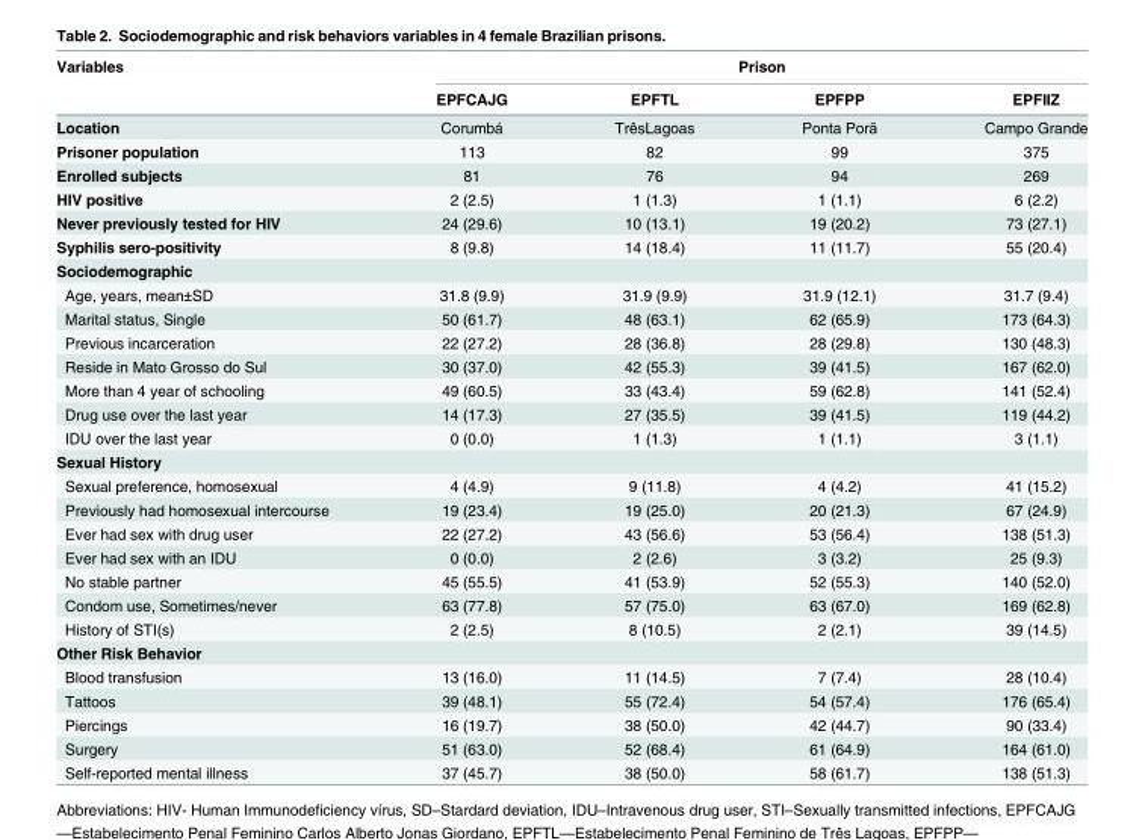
<table><thead><tr><td rowspan="2">Variables</td><td colspan="4">Prison</td></tr><tr><td>EPFCAJG</td><td>EPFTL</td><td>EPFPP</td><td>EPFIIZ</td></tr></thead><tbody><tr><td>Location</td><td>Corumbá</td><td>TrêsLagoas</td><td>Ponta Porã</td><td>Campo Grande</td></tr><tr><td>Prisoner population</td><td>113</td><td>82</td><td>99</td><td>375</td></tr><tr><td>Enrolled subjects</td><td>81</td><td>76</td><td>94</td><td>269</td></tr><tr><td>HIV positive</td><td>2 (2.5)</td><td>1 (1.3)</td><td>1 (1.1)</td><td>6 (2.2)</td></tr><tr><td>Never previously tested for HIV</td><td>24 (29.6)</td><td>10 (13.1)</td><td>19 (20.2)</td><td>73 (27.1)</td></tr><tr><td>Syphilis sero-positivity</td><td>8 (9.8)</td><td>14 (18.4)</td><td>11 (11.7)</td><td>55 (20.4)</td></tr><tr><td colspan="5">Sociodemographic</td></tr><tr><td>Age, years, mean±SD</td><td>31.8 (9.9)</td><td>31.9 (9.9)</td><td>31.9 (12.1)</td><td>31.7 (9.4)</td></tr><tr><td>Marital status, Single</td><td>50 (61.7)</td><td>48 (63.1)</td><td>62 (65.9)</td><td>173 (64.3)</td></tr><tr><td>Previous incarceration</td><td>22 (27.2)</td><td>28 (36.8)</td><td>28 (29.8)</td><td>130 (48.3)</td></tr><tr><td>Reside in Mato Grosso do Sul</td><td>30 (37.0)</td><td>42 (55.3)</td><td>39 (41.5)</td><td>167 (62.0)</td></tr><tr><td>More than 4 year of schooling</td><td>49 (60.5)</td><td>33 (43.4)</td><td>59 (62.8)</td><td>141 (52.4)</td></tr><tr><td>Drug use over the last year</td><td>14 (17.3)</td><td>27 (35.5)</td><td>39 (41.5)</td><td>119 (44.2)</td></tr><tr><td>IDU over the last year</td><td>0 (0.0)</td><td>1 (1.3)</td><td>1 (1.1)</td><td>3 (1.1)</td></tr><tr><td colspan="5">Sexual History</td></tr><tr><td>Sexual preference, homosexual</td><td>4 (4.9)</td><td>9 (11.8)</td><td>4 (4.2)</td><td>41 (15.2)</td></tr><tr><td>Previously had homosexual intercourse</td><td>19 (23.4)</td><td>19 (25.0)</td><td>20 (21.3)</td><td>67 (24.9)</td></tr><tr><td>Ever had sex with drug user</td><td>22 (27.2)</td><td>43 (56.6)</td><td>53 (56.4)</td><td>138 (51.3)</td></tr><tr><td>Ever had sex with an IDU</td><td>0 (0.0)</td><td>2 (2.6)</td><td>3 (3.2)</td><td>25 (9.3)</td></tr><tr><td>No stable partner</td><td>45 (55.5)</td><td>41 (53.9)</td><td>52 (55.3)</td><td>140 (52.0)</td></tr><tr><td>Condom use, Sometimes/never</td><td>63 (77.8)</td><td>57 (75.0)</td><td>63 (67.0)</td><td>169 (62.8)</td></tr><tr><td>History of STI(s)</td><td>2 (2.5)</td><td>8 (10.5)</td><td>2 (2.1)</td><td>39 (14.5)</td></tr><tr><td colspan="5">Other Risk Behavior</td></tr><tr><td>Blood transfusion</td><td>13 (16.0)</td><td>11 (14.5)</td><td>7 (7.4)</td><td>28 (10.4)</td></tr><tr><td>Tattoos</td><td>39 (48.1)</td><td>55 (72.4)</td><td>54 (57.4)</td><td>176 (65.4)</td></tr><tr><td>Piercings</td><td>16 (19.7)</td><td>38 (50.0)</td><td>42 (44.7)</td><td>90 (33.4)</td></tr><tr><td>Surgery</td><td>51 (63.0)</td><td>52 (68.4)</td><td>61 (64.9)</td><td>164 (61.0)</td></tr><tr><td>Self-reported mental illness</td><td>37 (45.7)</td><td>38 (50.0)</td><td>58 (61.7)</td><td>138 (51.3)</td></tr></tbody></table>